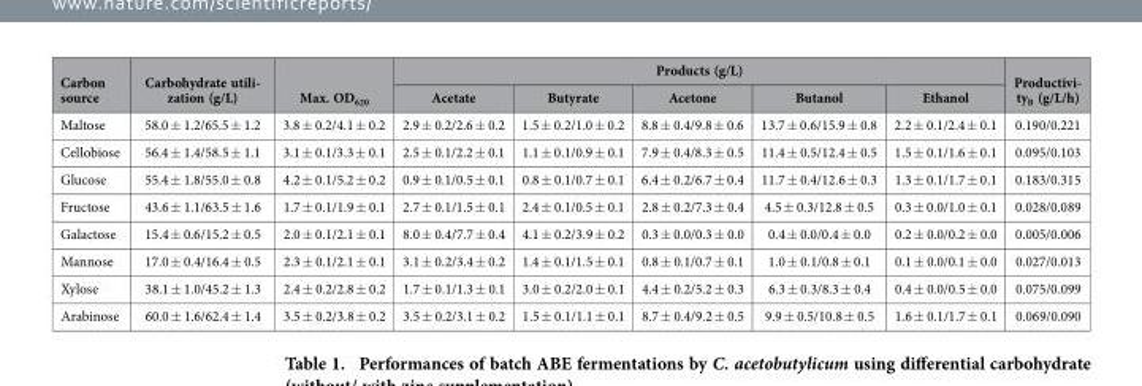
<table><thead><tr><td rowspan="2">Carbon source</td><td rowspan="2">Carbohydrate utili- zation (g/L)</td><td rowspan="2">Max. OD<sub>620</sub></td><td colspan="5">Products (g/L)</td><td rowspan="2">Productivi- tyB (g/L/h)</td></tr><tr><td>Acetate</td><td>Butyrate</td><td>Acetone</td><td>Butanol</td><td>Ethanol</td></tr></thead><tbody><tr><td>Maltose</td><td>58.0 ± 1.2/65.5 ± 1.2</td><td>3.8 ± 0.2/4.1 ± 0.2</td><td>2.9 ± 0.2/2.6 ± 0.2</td><td>1.5 ± 0.2/1.0 ± 0.2</td><td>8.8 ± 0.4/9.8 ± 0.6</td><td>13.7 ± 0.6/15.9 ± 0.8</td><td>2.2 ± 0.1/2.4 ± 0.1</td><td>0.190/0.221</td></tr><tr><td>Cellobiose</td><td>56.4 ± 1.4/58.5 ± 1.1</td><td>3.1 ± 0.1/3.3 ± 0.1</td><td>2.5 ± 0.1/2.2 ± 0.1</td><td>1.1 ± 0.1/0.9 ± 0.1</td><td>7.9 ± 0.4/8.3 ± 0.5</td><td>11.4 ± 0.5/12.4 ± 0.5</td><td>1.5 ± 0.1/1.6 ± 0.1</td><td>0.095/0.103</td></tr><tr><td>Glucose</td><td>55.4 ± 1.8/55.0 ± 0.8</td><td>4.2 ± 0.1/5.2 ± 0.2</td><td>0.9 ± 0.1/0.5 ± 0.1</td><td>0.8 ± 0.1/0.7 ± 0.1</td><td>6.4 ± 0.2/6.7 ± 0.4</td><td>11.7 ± 0.4/12.6 ± 0.3</td><td>1.3 ± 0.1/1.7 ± 0.1</td><td>0.183/0.315</td></tr><tr><td>Fructose</td><td>43.6 ± 1.1/63.5 ± 1.6</td><td>1.7 ± 0.1/1.9 ± 0.1</td><td>2.7 ± 0.1/1.5 ± 0.1</td><td>2.4 ± 0.1/0.5 ± 0.1</td><td>2.8 ± 0.2/7.3 ± 0.4</td><td>4.5 ± 0.3/12.8 ± 0.5</td><td>0.3 ± 0.0/1.0 ± 0.1</td><td>0.028/0.089</td></tr><tr><td>Galactose</td><td>15.4 ± 0.6/15.2 ± 0.5</td><td>2.0 ± 0.1/2.1 ± 0.1</td><td>8.0 ± 0.4/7.7 ± 0.4</td><td>4.1 ± 0.2/3.9 ± 0.2</td><td>0.3 ± 0.0/0.3 ± 0.0</td><td>0.4 ± 0.0/0.4 ± 0.0</td><td>0.2 ± 0.0/0.2 ± 0.0</td><td>0.005/0.006</td></tr><tr><td>Mannose</td><td>17.0 ± 0.4/16.4 ± 0.5</td><td>2.3 ± 0.1/2.1 ± 0.1</td><td>3.1 ± 0.2/3.4 ± 0.2</td><td>1.4 ± 0.1/1.5 ± 0.1</td><td>0.8 ± 0.1/0.7 ± 0.1</td><td>1.0 ± 0.1/0.8 ± 0.1</td><td>0.1 ± 0.0/0.1 ± 0.0</td><td>0.027/0.013</td></tr><tr><td>Xylose</td><td>38.1 ± 1.0/45.2 ± 1.3</td><td>2.4 ± 0.2/2.8 ± 0.2</td><td>1.7 ± 0.1/1.3 ± 0.1</td><td>3.0 ± 0.2/2.0 ± 0.1</td><td>4.4 ± 0.2/5.2 ± 0.3</td><td>6.3 ± 0.3/8.3 ± 0.4</td><td>0.4 ± 0.0/0.5 ± 0.0</td><td>0.075/0.099</td></tr><tr><td>Arabinose</td><td>60.0 ± 1.6/62.4 ± 1.4</td><td>3.5 ± 0.2/3.8 ± 0.2</td><td>3.5 ± 0.2/3.1 ± 0.2</td><td>1.5 ± 0.1/1.1 ± 0.1</td><td>8.7 ± 0.4/9.2 ± 0.5</td><td>9.9 ± 0.5/10.8 ± 0.5</td><td>1.6 ± 0.1/1.7 ± 0.1</td><td>0.069/0.090</td></tr></tbody></table>